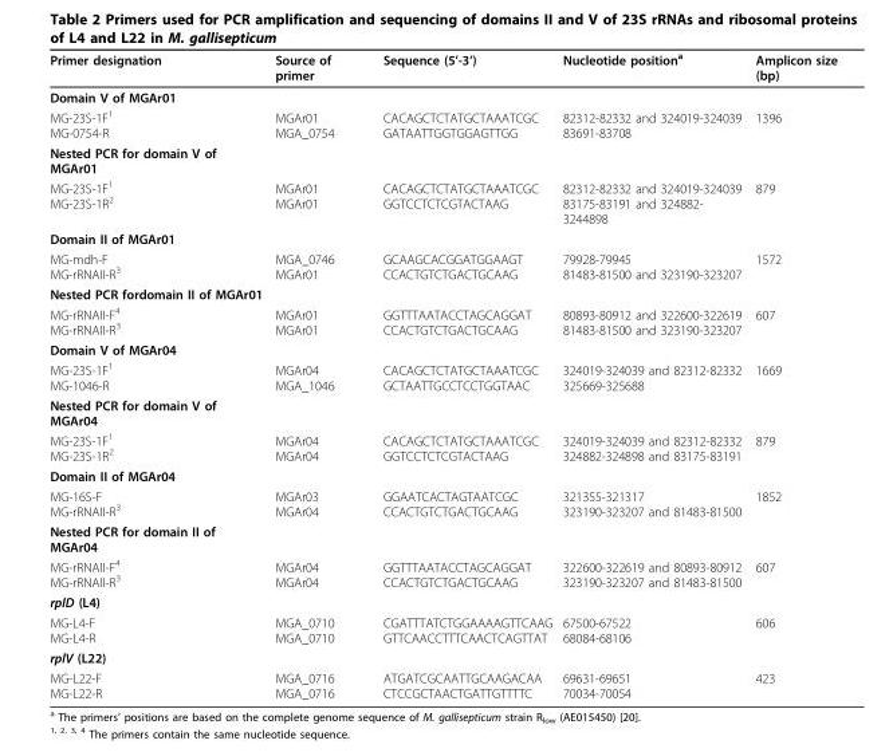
<table><thead><tr><td>Primer designation</td><td>Source of primer</td><td>Sequence (5’-3’)</td><td>Nucleotide position<sup>a</sup></td><td>Amplicon size (bp)</td></tr></thead><tbody><tr><td colspan="5">Domain V of MGAr01</td></tr><tr><td>MG-23S-1F<sup>1</sup> MG-0754-R</td><td>MGAr01 MGA_0754</td><td>CACAGCTCTATGCTAAATCGC GATAATTGGTGGAGTTGG</td><td>82312-82332 and 324019-324039 83691-83708</td><td>1396</td></tr><tr><td colspan="5">Nested PCR for domain V of MGAr01</td></tr><tr><td>MG-23S-1F<sup>1</sup> MG-23S-1R<sup>2</sup></td><td>MGAr01 MGAr01</td><td>CACAGCTCTATGCTAAATCGC GGTCCTCTCGTACTAAG</td><td>82312-82332 and 324019-324039 83175-83191 and 324882- 3244898</td><td>879</td></tr><tr><td colspan="5">Domain II of MGAr01</td></tr><tr><td>MG-mdh-F MG-rRNAII-R<sup>3</sup></td><td>MGA_0746 MGAr01</td><td>GCAAGCACGGATGGAAGT CCACTGTCTGACTGCAAG</td><td>79928-79945 81483-81500 and 323190-323207</td><td>1572</td></tr><tr><td colspan="5">Nested PCR fordomain II of MGAr01</td></tr><tr><td>MG-rRNAII-F<sup>4</sup> MG-rRNAII-R<sup>3</sup></td><td>MGAr01 MGAr01</td><td>GGTTTAATACCTAGCAGGAT CCACTGTCTGACTGCAAG</td><td>80893-80912 and 322600-322619 81483-81500 and 323190-323207</td><td>607</td></tr><tr><td colspan="5">Domain V of MGAr04</td></tr><tr><td>MG-23S-1F<sup>1</sup> MG-1046-R</td><td>MGAr04 MGA_1046</td><td>CACAGCTCTATGCTAAATCGC GCTAATTGCCTCCTGGTAAC</td><td>324019-324039 and 82312-82332 325669-325688</td><td>1669</td></tr><tr><td colspan="5">Nested PCR for domain V of MGAr04</td></tr><tr><td>MG-23S-1F<sup>1</sup> MG-23S-1R<sup>2</sup></td><td>MGAr04 MGAr04</td><td>CACAGCTCTATGCTAAATCGC GGTCCTCTCGTACTAAG</td><td>324019-324039 and 82312-82332 324882-324898 and 83175-83191</td><td>879</td></tr><tr><td colspan="5">Domain II of MGAr04</td></tr><tr><td>MG-16S-F MG-rRNAII-R<sup>3</sup></td><td>MGAr03 MGAr04</td><td>GGAATCACTAGTAATCGC CCACTGTCTGACTGCAAG</td><td>321355-321317 323190-323207 and 81483-81500</td><td>1852</td></tr><tr><td colspan="5">Nested PCR for domain II of MGAr04</td></tr><tr><td>MG-rRNAII-F<sup>4</sup> MG-rRNAII-R<sup>3</sup></td><td>MGAr04 MGAr04</td><td>GGTTTAATACCTAGCAGGAT CCACTGTCTGACTGCAAG</td><td>322600-322619 and 80893-80912 323190-323207 and 81483-81500</td><td>607</td></tr><tr><td colspan="5">rplD (L4)</td></tr><tr><td>MG-L4-F MG-L4-R</td><td>MGA_0710 MGA_0710</td><td>CGATTTATCTGGAAAAGTTCAAG GTTCAACCTTTCAACTCAGTTAT</td><td>67500-67522 68084-68106</td><td>606</td></tr><tr><td colspan="5">rplV (L22)</td></tr><tr><td>MG-L22-F MG-L22-R</td><td>MGA_0716 MGA_0716</td><td>ATGATCGCAATTGCAAGACAA CTCCGCTAACTGATTGTTTTC</td><td>69631-69651 70034-70054</td><td>423</td></tr></tbody></table>